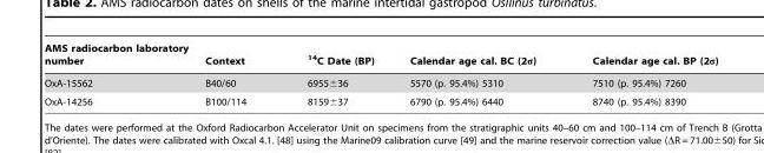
<table><thead><tr><td>AMS radiocarbon laboratory number</td><td>Context</td><td><sup>14</sup>C Date (BP)</td><td>Calendar age cal. BC (2σ)</td><td>Calendar age cal. BP (2σ)</td></tr></thead><tbody><tr><td>OxA-15562</td><td>B40/60</td><td>6955±36</td><td>5570 (p. 95.4%) 5310</td><td>7510 (p. 95.4%) 7260</td></tr><tr><td>OxA-14256</td><td>B100/114</td><td>8159±37</td><td>6790 (p. 95.4%) 6440</td><td>8740 (p. 95.4%) 8390</td></tr></tbody></table>